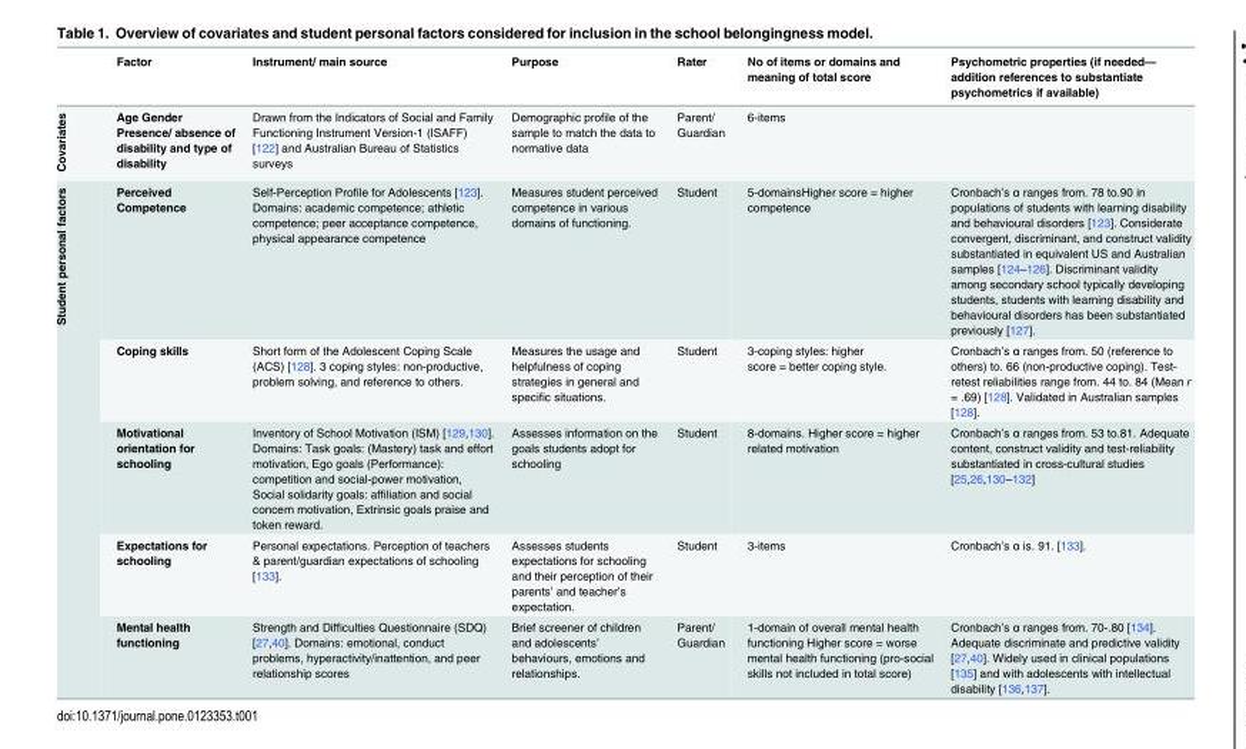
<table><thead><tr><td></td><td>Factor</td><td>Instrument/ main source</td><td>Purpose</td><td>Rater</td><td>No of items or domains and meaning of total score</td><td>Psychometric properties (if needed— addition references to substantiate psychometrics if available)</td></tr></thead><tbody><tr><td>Covariates</td><td>Age Gender Presence/ absence of disability and type of disability</td><td>Drawn from the Indicators of Social and Family Functioning Instrument Version-1 (ISAFF) [122] and Australian Bureau of Statistics surveys</td><td>Demographic profile of the sample to match the data to normative data</td><td>Parent/ Guardian</td><td>6-items</td><td></td></tr><tr><td rowspan="5">Student personal factors</td><td>Perceived Competence</td><td>Self-Perception Profile for Adolescents [123]. Domains: academic competence; athletic competence; peer acceptance competence, physical appearance competence</td><td>Measures student perceived competence in various domains of functioning.</td><td>Student</td><td>5-domainsHigher score = higher competence</td><td>Cronbach’s α ranges from. 78 to.90 in populations of students with learning disability and behavioural disorders [123]. Considerate convergent, discriminant, and construct validity substantiated in equivalent US and Australian samples [124–126]. Discriminant validity among secondary school typically developing students, students with learning disability and behavioural disorders has been substantiated previously [127].</td></tr><tr><td>Coping skills</td><td>Short form of the Adolescent Coping Scale (ACS) [128]. 3 coping styles: non-productive, problem solving, and reference to others.</td><td>Measures the usage and helpfulness of coping strategies in general and specific situations.</td><td>Student</td><td>3-coping styles: higher score = better coping style.</td><td>Cronbach’s α ranges from. 50 (reference to others) to. 66 (non-productive coping). Test- retest reliabilities range from. 44 to. 84 (Mean r = .69) [128]. Validated in Australian samples [128].</td></tr><tr><td>Motivational orientation for schooling</td><td>Inventory of School Motivation (ISM) [129,130]. Domains: Task goals: (Mastery) task and effort motivation, Ego goals (Performance): competition and social-power motivation, Social solidarity goals: affiliation and social concern motivation, Extrinsic goals praise and token reward.</td><td>Assesses information on the goals students adopt for schooling</td><td>Student</td><td>8-domains. Higher score = higher related motivation</td><td>Cronbach’s α ranges from. 53 to.81. Adequate content, construct validity and test-reliability substantiated in cross-cultural studies [25,26,130–132]</td></tr><tr><td>Expectations for schooling</td><td>Personal expectations. Perception of teachers &amp; parent/guardian expectations of schooling [133].</td><td>Assesses students expectations for schooling and their perception of their parents’ and teacher’s expectation.</td><td>Student</td><td>3-items</td><td>Cronbach’s α is. 91. [133].</td></tr><tr><td>Mental health functioning</td><td>Strength and Difficulties Questionnaire (SDQ) [27,40]. Domains: emotional, conduct problems, hyperactivity/inattention, and peer relationship scores</td><td>Brief screener of children and adolescents’ behaviours, emotions and relationships.</td><td>Parent/ Guardian</td><td>1-domain of overall mental health functioning Higher score = worse mental health functioning (pro-social skills not included in total score)</td><td>Cronbach’s α ranges from. 70-.80 [134]. Adequate discriminate and predictive validity [27,40]. Widely used in clinical populations [135] and with adolescents with intellectual disability [136,137].</td></tr></tbody></table>